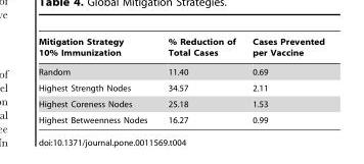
<table><thead><tr><td>Mitigation Strategy 10% Immunization</td><td>% Reduction of Total Cases</td><td>Cases Prevented per Vaccine</td></tr></thead><tbody><tr><td>Random</td><td>11.40</td><td>0.69</td></tr><tr><td>Highest Strength Nodes</td><td>34.57</td><td>2.11</td></tr><tr><td>Highest Coreness Nodes</td><td>25.18</td><td>1.53</td></tr><tr><td>Highest Betweenness Nodes</td><td>16.27</td><td>0.99</td></tr></tbody></table>